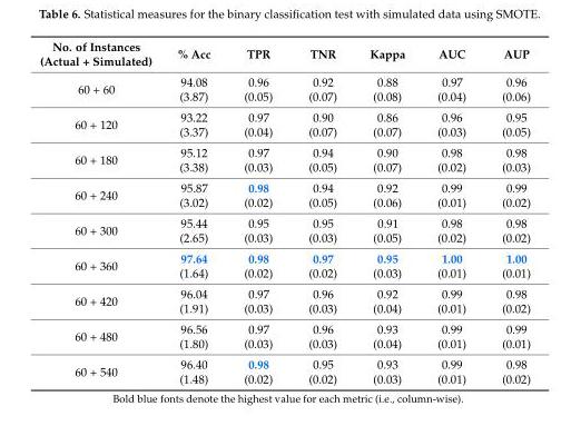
<table><thead><tr><td>No. of Instances (Actual + Simulated)</td><td>% Acc</td><td>TPR</td><td>TNR</td><td>Kappa</td><td>AUC</td><td>AUP</td></tr></thead><tbody><tr><td>60 + 60</td><td>94.08 (3.87)</td><td>0.96 (0.05)</td><td>0.92 (0.07)</td><td>0.88 (0.08)</td><td>0.97 (0.04)</td><td>0.96 (0.06)</td></tr><tr><td>60 + 120</td><td>93.22 (3.37)</td><td>0.97 (0.04)</td><td>0.90 (0.07)</td><td>0.86 (0.07)</td><td>0.96 (0.03)</td><td>0.95 (0.05)</td></tr><tr><td>60 + 180</td><td>95.12 (3.38)</td><td>0.97 (0.03)</td><td>0.94 (0.05)</td><td>0.90 (0.07)</td><td>0.98 (0.02)</td><td>0.98 (0.03)</td></tr><tr><td>60 + 240</td><td>95.87 (3.02)</td><td>0.98 (0.02)</td><td>0.94 (0.05)</td><td>0.92 (0.06)</td><td>0.99 (0.01)</td><td>0.99 (0.02)</td></tr><tr><td>60 + 300</td><td>95.44 (2.65)</td><td>0.95 (0.03)</td><td>0.95 (0.03)</td><td>0.91 (0.05)</td><td>0.98 (0.02)</td><td>0.98 (0.02)</td></tr><tr><td>60 + 360</td><td>97.64 (1.64)</td><td>0.98 (0.02)</td><td>0.97 (0.02)</td><td>0.95 (0.03)</td><td>1.00 (0.01)</td><td>1.00 (0.01)</td></tr><tr><td>60 + 420</td><td>96.04 (1.91)</td><td>0.97 (0.03)</td><td>0.96 (0.03)</td><td>0.92 (0.04)</td><td>0.99 (0.01)</td><td>0.98 (0.02)</td></tr><tr><td>60 + 480</td><td>96.56 (1.80)</td><td>0.97 (0.03)</td><td>0.96 (0.03)</td><td>0.93 (0.04)</td><td>0.99 (0.01)</td><td>0.99 (0.01)</td></tr><tr><td>60 + 540</td><td>96.40 (1.48)</td><td>0.98 (0.02)</td><td>0.95 (0.02)</td><td>0.93 (0.03)</td><td>0.99 (0.01)</td><td>0.98 (0.02)</td></tr></tbody></table>